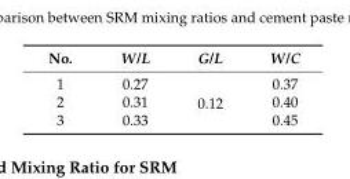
<table><thead><tr><td>No.</td><td>W/L</td><td>G/L</td><td>W/C</td></tr></thead><tbody><tr><td>1</td><td>0.27</td><td rowspan="3">0.12</td><td>0.37</td></tr><tr><td>2</td><td>0.31</td><td>0.40</td></tr><tr><td>3</td><td>0.33</td><td>0.45</td></tr></tbody></table>